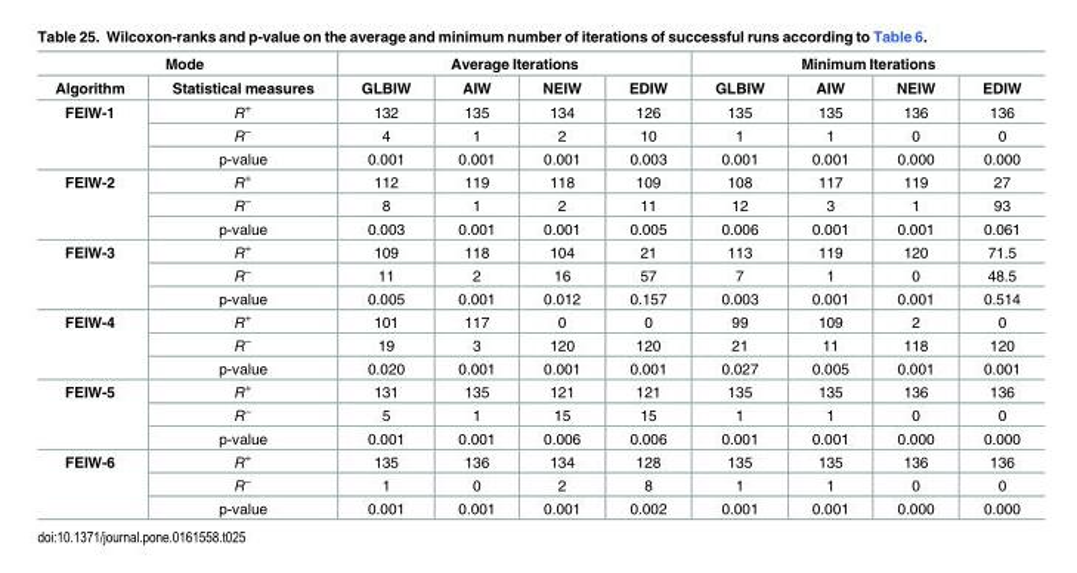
<table><thead><tr><td colspan="2">Mode</td><td colspan="4">Average Iterations</td><td colspan="4">Minimum Iterations</td></tr><tr><td>Algorithm</td><td>Statistical measures</td><td>GLBIW</td><td>AIW</td><td>NEIW</td><td>EDIW</td><td>GLBIW</td><td>AIW</td><td>NEIW</td><td>EDIW</td></tr></thead><tbody><tr><td rowspan="3">FEIW-1</td><td>R<sup>+</sup></td><td>132</td><td>135</td><td>134</td><td>126</td><td>135</td><td>135</td><td>136</td><td>136</td></tr><tr><td>R<sup>−</sup></td><td>4</td><td>1</td><td>2</td><td>10</td><td>1</td><td>1</td><td>0</td><td>0</td></tr><tr><td>p-value</td><td>0.001</td><td>0.001</td><td>0.001</td><td>0.003</td><td>0.001</td><td>0.001</td><td>0.000</td><td>0.000</td></tr><tr><td rowspan="3">FEIW-2</td><td>R<sup>+</sup></td><td>112</td><td>119</td><td>118</td><td>109</td><td>108</td><td>117</td><td>119</td><td>27</td></tr><tr><td>R<sup>−</sup></td><td>8</td><td>1</td><td>2</td><td>11</td><td>12</td><td>3</td><td>1</td><td>93</td></tr><tr><td>p-value</td><td>0.003</td><td>0.001</td><td>0.001</td><td>0.005</td><td>0.006</td><td>0.001</td><td>0.001</td><td>0.061</td></tr><tr><td rowspan="3">FEIW-3</td><td>R<sup>+</sup></td><td>109</td><td>118</td><td>104</td><td>21</td><td>113</td><td>119</td><td>120</td><td>71.5</td></tr><tr><td>R<sup>−</sup></td><td>11</td><td>2</td><td>16</td><td>57</td><td>7</td><td>1</td><td>0</td><td>48.5</td></tr><tr><td>p-value</td><td>0.005</td><td>0.001</td><td>0.012</td><td>0.157</td><td>0.003</td><td>0.001</td><td>0.001</td><td>0.514</td></tr><tr><td rowspan="3">FEIW-4</td><td>R<sup>+</sup></td><td>101</td><td>117</td><td>0</td><td>0</td><td>99</td><td>109</td><td>2</td><td>0</td></tr><tr><td>R<sup>−</sup></td><td>19</td><td>3</td><td>120</td><td>120</td><td>21</td><td>11</td><td>118</td><td>120</td></tr><tr><td>p-value</td><td>0.020</td><td>0.001</td><td>0.001</td><td>0.001</td><td>0.027</td><td>0.005</td><td>0.001</td><td>0.001</td></tr><tr><td rowspan="3">FEIW-5</td><td>R<sup>+</sup></td><td>131</td><td>135</td><td>121</td><td>121</td><td>135</td><td>135</td><td>136</td><td>136</td></tr><tr><td>R<sup>−</sup></td><td>5</td><td>1</td><td>15</td><td>15</td><td>1</td><td>1</td><td>0</td><td>0</td></tr><tr><td>p-value</td><td>0.001</td><td>0.001</td><td>0.006</td><td>0.006</td><td>0.001</td><td>0.001</td><td>0.000</td><td>0.000</td></tr><tr><td rowspan="3">FEIW-6</td><td>R<sup>+</sup></td><td>135</td><td>136</td><td>134</td><td>128</td><td>135</td><td>135</td><td>136</td><td>136</td></tr><tr><td>R<sup>−</sup></td><td>1</td><td>0</td><td>2</td><td>8</td><td>1</td><td>1</td><td>0</td><td>0</td></tr><tr><td>p-value</td><td>0.001</td><td>0.001</td><td>0.001</td><td>0.002</td><td>0.001</td><td>0.001</td><td>0.000</td><td>0.000</td></tr></tbody></table>